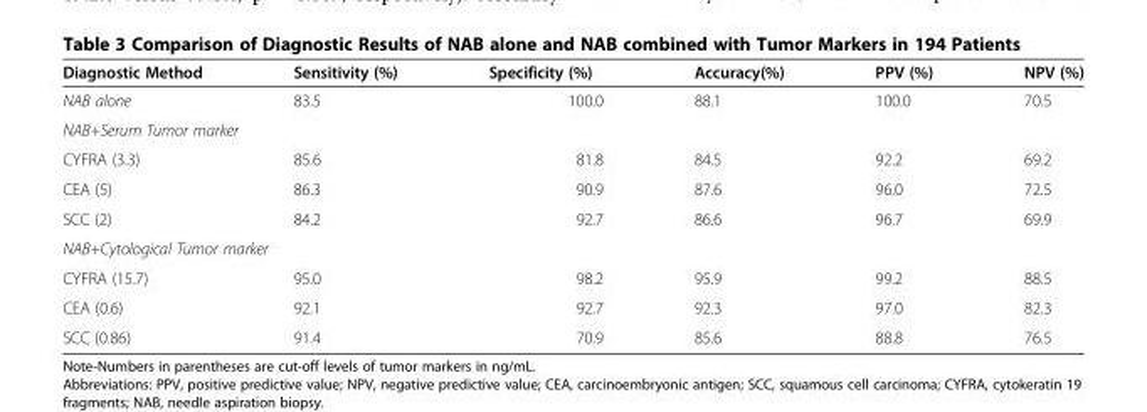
<table><thead><tr><td>Diagnostic Method</td><td>Sensitivity (%)</td><td>Specificity (%)</td><td>Accuracy(%)</td><td>PPV (%)</td><td>NPV (%)</td></tr></thead><tbody><tr><td>NAB alone</td><td>83.5</td><td>100.0</td><td>88.1</td><td>100.0</td><td>70.5</td></tr><tr><td colspan="6">NAB+Serum Tumor marker</td></tr><tr><td>CYFRA (3.3)</td><td>85.6</td><td>81.8</td><td>84.5</td><td>92.2</td><td>69.2</td></tr><tr><td>CEA (5)</td><td>86.3</td><td>90.9</td><td>87.6</td><td>96.0</td><td>72.5</td></tr><tr><td>SCC (2)</td><td>84.2</td><td>92.7</td><td>86.6</td><td>96.7</td><td>69.9</td></tr><tr><td colspan="6">NAB+Cytological Tumor marker</td></tr><tr><td>CYFRA (15.7)</td><td>95.0</td><td>98.2</td><td>95.9</td><td>99.2</td><td>88.5</td></tr><tr><td>CEA (0.6)</td><td>92.1</td><td>92.7</td><td>92.3</td><td>97.0</td><td>82.3</td></tr><tr><td>SCC (0.86)</td><td>91.4</td><td>70.9</td><td>85.6</td><td>88.8</td><td>76.5</td></tr></tbody></table>